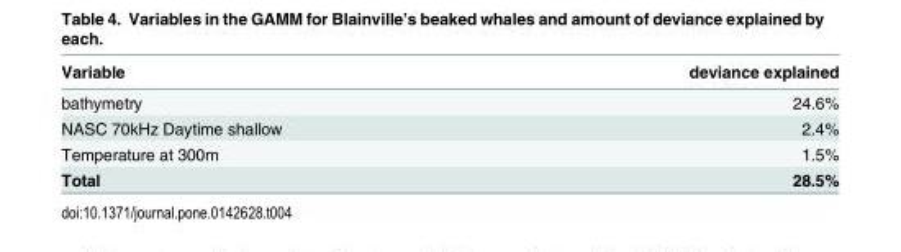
<table><thead><tr><td>Variable</td><td>deviance explained</td></tr></thead><tbody><tr><td>bathymetry</td><td>24.6%</td></tr><tr><td>NASC 70kHz Daytime shallow</td><td>2.4%</td></tr><tr><td>Temperature at 300m</td><td>1.5%</td></tr><tr><td>Total</td><td>28.5%</td></tr></tbody></table>